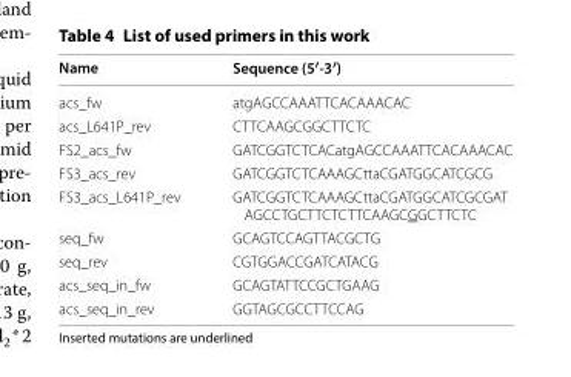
<table><thead><tr><td>Name</td><td>Sequence (5′‑3′)</td></tr></thead><tbody><tr><td>acs_fw</td><td>atgAGC CAA ATT CAC AAA CAC</td></tr><tr><td>acs_L641P_rev</td><td>CTT CAA GCG GCT TCTC</td></tr><tr><td>FS2_acs_fw</td><td>GAT CGG TCT CAC atgAGC CAA ATT CAC AAA CAC</td></tr><tr><td>FS3_acs_rev</td><td>GAT CGG TCT CAA AGCttaCGA TGG CAT CGC G</td></tr><tr><td>FS3_acs_L641P_rev</td><td>GAT CGG TCT CAA AGCttaCGA TGG CAT CGC GAT AGC CTG CTT CTC TTC AAGC GGCT TCT C</td></tr><tr><td>seq_fw</td><td>GCA GTC CAG TTA CGCTG</td></tr><tr><td>seq_rev</td><td>CGT GGA CCG ATC ATACG</td></tr><tr><td>acs_seq_in_fw</td><td>GCA GTA TTC CGC TGAAG</td></tr><tr><td>acs_seq_in_rev</td><td>GGT AGC GCC TTC CAG</td></tr></tbody></table>